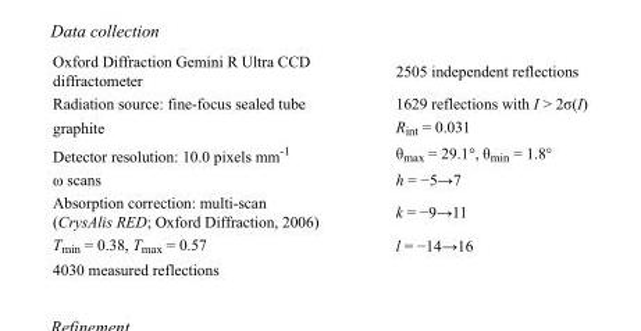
<table><tbody><tr><td>Oxford Diffraction Gemini R Ultra CCD diffractometer</td><td>2505 independent reflections</td></tr><tr><td>Radiation source: fine-focus sealed tube</td><td>1629 reflections with I &gt; 2σ(I)</td></tr><tr><td>graphite</td><td>R<sub>int</sub> = 0.031</td></tr><tr><td>Detector resolution: 10.0 pixels mm<sup>-1</sup></td><td>θ<sub>max</sub> = 29.1°, θ<sub>min</sub> = 1.8°</td></tr><tr><td>ω scans</td><td>h = −5→7</td></tr><tr><td>Absorption correction: multi-scan (CrysAlis RED; Oxford Diffraction, 2006)</td><td>k = −9→11</td></tr><tr><td>T<sub>min</sub> = 0.38, T<sub>max</sub> = 0.57</td><td>l = −14→16</td></tr><tr><td>4030 measured reflections</td><td></td></tr></tbody></table>